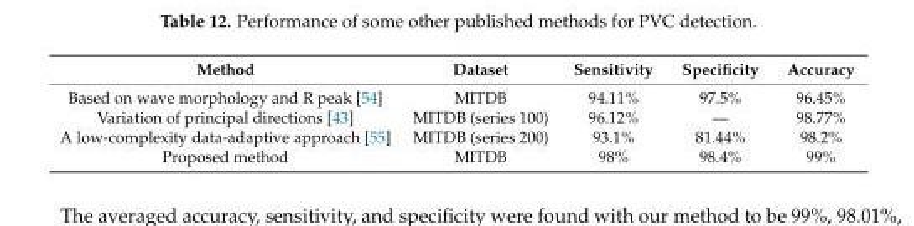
<table><thead><tr><td>Method</td><td>Dataset</td><td>Sensitivity</td><td>Specificity</td><td>Accuracy</td></tr></thead><tbody><tr><td>Based on wave morphology and R peak [54]</td><td>MITDB</td><td>94.11%</td><td>97.5%</td><td>96.45%</td></tr><tr><td>Variation of principal directions [43]</td><td>MITDB (series 100)</td><td>96.12%</td><td>—</td><td>98.77%</td></tr><tr><td>A low-complexity data-adaptive approach [55]</td><td>MITDB (series 200)</td><td>93.1%</td><td>81.44%</td><td>98.2%</td></tr><tr><td>Proposed method</td><td>MITDB</td><td>98%</td><td>98.4%</td><td>99%</td></tr></tbody></table>